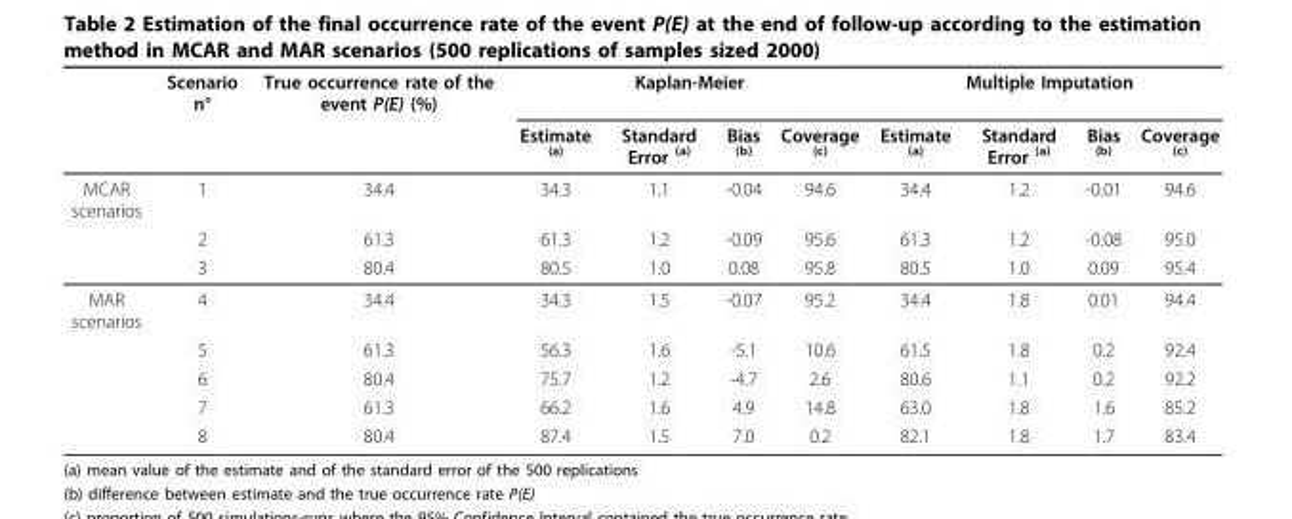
<table><thead><tr><td rowspan="2"></td><td rowspan="2">Scenario n°</td><td rowspan="2">True occurrence rate of the event P(E) (%)</td><td colspan="4">Kaplan-Meier</td><td colspan="4">Multiple Imputation</td></tr><tr><td>Estimate <sup>(a)</sup></td><td>Standard Error <sup>(a)</sup></td><td>Bias <sup>(b)</sup></td><td>Coverage <sup>(c)</sup></td><td>Estimate <sup>(a)</sup></td><td>Standard Error <sup>(a)</sup></td><td>Bias <sup>(b)</sup></td><td>Coverage <sup>(c)</sup></td></tr></thead><tbody><tr><td rowspan="3">MCAR scenarios</td><td>1</td><td>34.4</td><td>34.3</td><td>1.1</td><td>-0.04</td><td>94.6</td><td>34.4</td><td>1.2</td><td>-0.01</td><td>94.6</td></tr><tr><td>2</td><td>61.3</td><td>61.3</td><td>1.2</td><td>-0.09</td><td>95.6</td><td>61.3</td><td>1.2</td><td>-0.08</td><td>95.0</td></tr><tr><td>3</td><td>80.4</td><td>80.5</td><td>1.0</td><td>0.08</td><td>95.8</td><td>80.5</td><td>1.0</td><td>0.09</td><td>95.4</td></tr><tr><td rowspan="5">MAR scenarios</td><td>4</td><td>34.4</td><td>34.3</td><td>1.5</td><td>-0.07</td><td>95.2</td><td>34.4</td><td>1.8</td><td>0.01</td><td>94.4</td></tr><tr><td>5</td><td>61.3</td><td>56.3</td><td>1.6</td><td>-5.1</td><td>10.6</td><td>61.5</td><td>1.8</td><td>0.2</td><td>92.4</td></tr><tr><td>6</td><td>80.4</td><td>75.7</td><td>1.2</td><td>-4.7</td><td>2.6</td><td>80.6</td><td>1.1</td><td>0.2</td><td>92.2</td></tr><tr><td>7</td><td>61.3</td><td>66.2</td><td>1.6</td><td>4.9</td><td>14.8</td><td>63.0</td><td>1.8</td><td>1.6</td><td>85.2</td></tr><tr><td>8</td><td>80.4</td><td>87.4</td><td>1.5</td><td>7.0</td><td>0.2</td><td>82.1</td><td>1.8</td><td>1.7</td><td>83.4</td></tr></tbody></table>